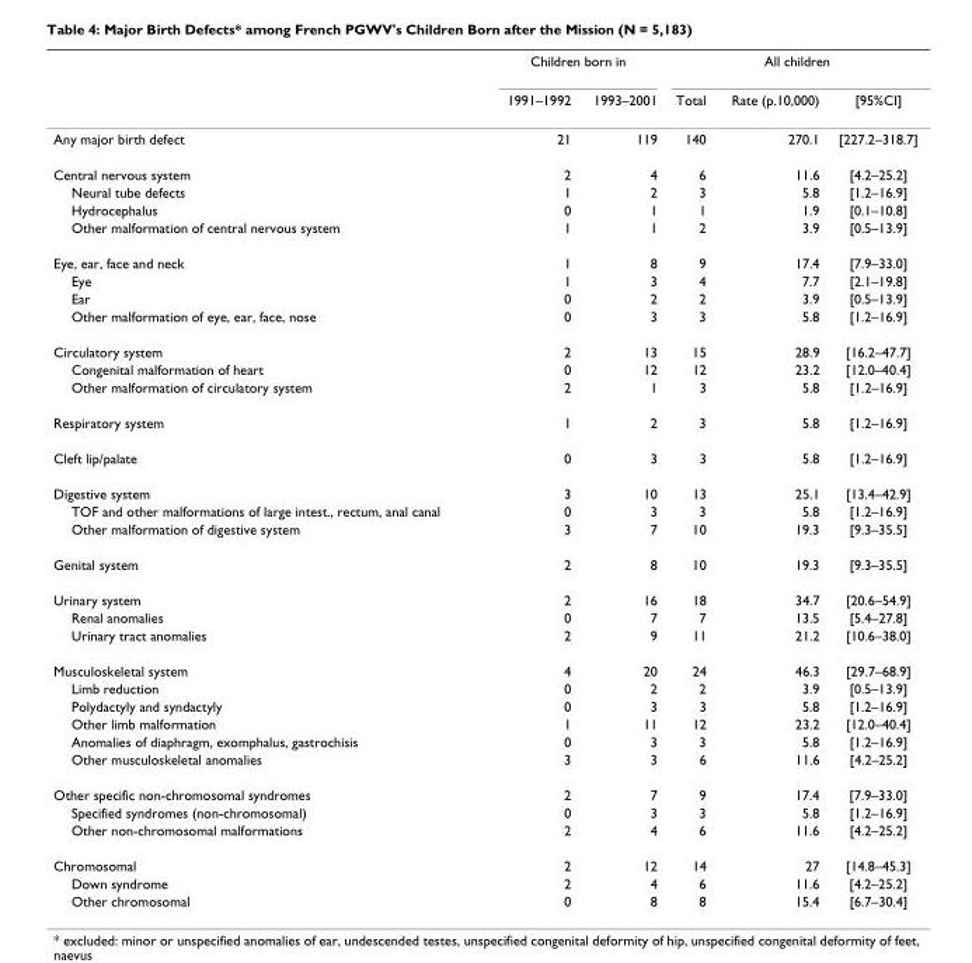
<table><thead><tr><td rowspan="2"></td><td colspan="2">Children born in</td><td colspan="3">All children</td></tr><tr><td>1991–1992</td><td>1993–2001</td><td>Total</td><td>Rate (p.10,000)</td><td>[95%CI]</td></tr></thead><tbody><tr><td>Any major birth defect</td><td>21</td><td>119</td><td>140</td><td>270.1</td><td>[227.2–318.7]</td></tr><tr><td>Central nervous system</td><td>2</td><td>4</td><td>6</td><td>11.6</td><td>[4.2–25.2]</td></tr><tr><td>Neural tube defects</td><td>1</td><td>2</td><td>3</td><td>5.8</td><td>[1.2–16.9]</td></tr><tr><td>Hydrocephalus</td><td>0</td><td>1</td><td>1</td><td>1.9</td><td>[0.1–10.8]</td></tr><tr><td>Other malformation of central nervous system</td><td>1</td><td>1</td><td>2</td><td>3.9</td><td>[0.5–13.9]</td></tr><tr><td>Eye, ear, face and neck</td><td>1</td><td>8</td><td>9</td><td>17.4</td><td>[7.9–33.0]</td></tr><tr><td>Eye</td><td>1</td><td>3</td><td>4</td><td>7.7</td><td>[2.1–19.8]</td></tr><tr><td>Ear</td><td>0</td><td>2</td><td>2</td><td>3.9</td><td>[0.5–13.9]</td></tr><tr><td>Other malformation of eye, ear, face, nose</td><td>0</td><td>3</td><td>3</td><td>5.8</td><td>[1.2–16.9]</td></tr><tr><td>Circulatory system</td><td>2</td><td>13</td><td>15</td><td>28.9</td><td>[16.2–47.7]</td></tr><tr><td>Congenital malformation of heart</td><td>0</td><td>12</td><td>12</td><td>23.2</td><td>[12.0–40.4]</td></tr><tr><td>Other malformation of circulatory system</td><td>2</td><td>1</td><td>3</td><td>5.8</td><td>[1.2–16.9]</td></tr><tr><td>Respiratory system</td><td>1</td><td>2</td><td>3</td><td>5.8</td><td>[1.2–16.9]</td></tr><tr><td>Cleft lip/palate</td><td>0</td><td>3</td><td>3</td><td>5.8</td><td>[1.2–16.9]</td></tr><tr><td>Digestive system</td><td>3</td><td>10</td><td>13</td><td>25.1</td><td>[13.4–42.9]</td></tr><tr><td>TOF and other malformations of large intest., rectum, anal canal</td><td>0</td><td>3</td><td>3</td><td>5.8</td><td>[1.2–16.9]</td></tr><tr><td>Other malformation of digestive system</td><td>3</td><td>7</td><td>10</td><td>19.3</td><td>[9.3–35.5]</td></tr><tr><td>Genital system</td><td>2</td><td>8</td><td>10</td><td>19.3</td><td>[9.3–35.5]</td></tr><tr><td>Urinary system</td><td>2</td><td>16</td><td>18</td><td>34.7</td><td>[20.6–54.9]</td></tr><tr><td>Renal anomalies</td><td>0</td><td>7</td><td>7</td><td>13.5</td><td>[5.4–27.8]</td></tr><tr><td>Urinary tract anomalies</td><td>2</td><td>9</td><td>11</td><td>21.2</td><td>[10.6–38.0]</td></tr><tr><td>Musculoskeletal system</td><td>4</td><td>20</td><td>24</td><td>46.3</td><td>[29.7–68.9]</td></tr><tr><td>Limb reduction</td><td>0</td><td>2</td><td>2</td><td>3.9</td><td>[0.5–13.9]</td></tr><tr><td>Polydactyly and syndactyly</td><td>0</td><td>3</td><td>3</td><td>5.8</td><td>[1.2–16.9]</td></tr><tr><td>Other limb malformation</td><td>1</td><td>11</td><td>12</td><td>23.2</td><td>[12.0–40.4]</td></tr><tr><td>Anomalies of diaphragm, exomphalus, gastrochisis</td><td>0</td><td>3</td><td>3</td><td>5.8</td><td>[1.2–16.9]</td></tr><tr><td>Other musculoskeletal anomalies</td><td>3</td><td>3</td><td>6</td><td>11.6</td><td>[4.2–25.2]</td></tr><tr><td>Other specific non-chromosomal syndromes</td><td>2</td><td>7</td><td>9</td><td>17.4</td><td>[7.9–33.0]</td></tr><tr><td>Specified syndromes (non-chromosomal)</td><td>0</td><td>3</td><td>3</td><td>5.8</td><td>[1.2–16.9]</td></tr><tr><td>Other non-chromosomal malformations</td><td>2</td><td>4</td><td>6</td><td>11.6</td><td>[4.2–25.2]</td></tr><tr><td>Chromosomal</td><td>2</td><td>12</td><td>14</td><td>27</td><td>[14.8–45.3]</td></tr><tr><td>Down syndrome</td><td>2</td><td>4</td><td>6</td><td>11.6</td><td>[4.2–25.2]</td></tr><tr><td>Other chromosomal</td><td>0</td><td>8</td><td>8</td><td>15.4</td><td>[6.7–30.4]</td></tr></tbody></table>